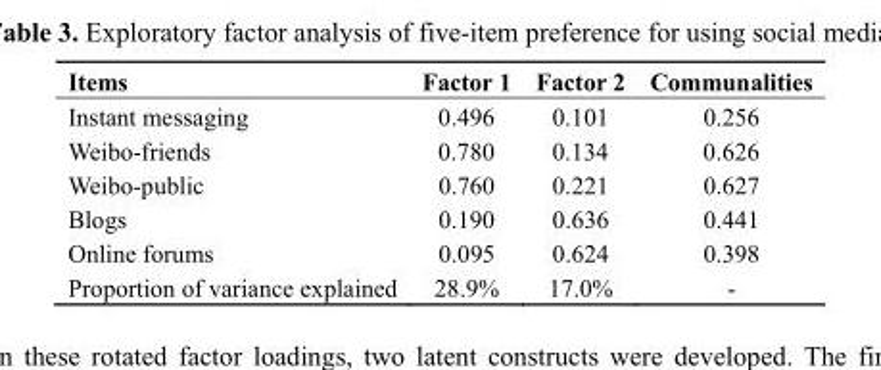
<table><thead><tr><td>Items</td><td>Factor 1</td><td>Factor 2</td><td>Communalities</td></tr></thead><tbody><tr><td>Instant messaging</td><td>0.496</td><td>0.101</td><td>0.256</td></tr><tr><td>Weibo-friends</td><td>0.780</td><td>0.134</td><td>0.626</td></tr><tr><td>Weibo-public</td><td>0.760</td><td>0.221</td><td>0.627</td></tr><tr><td>Blogs</td><td>0.190</td><td>0.636</td><td>0.441</td></tr><tr><td>Online forums</td><td>0.095</td><td>0.624</td><td>0.398</td></tr><tr><td>Proportion of variance explained</td><td>28.9%</td><td>17.0%</td><td>-</td></tr></tbody></table>